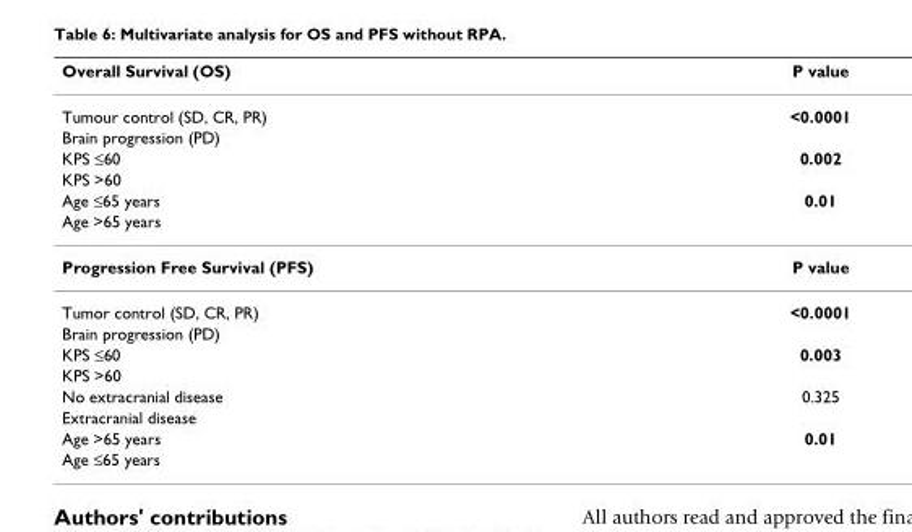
<table><thead><tr><td>Overall Survival (OS)</td><td>P value</td></tr></thead><tbody><tr><td>Tumour control (SD, CR, PR)</td><td>&lt;0.0001</td></tr><tr><td colspan="2">Brain progression (PD)</td></tr><tr><td>KPS ≤60</td><td>0.002</td></tr><tr><td colspan="2">KPS &gt;60</td></tr><tr><td>Age ≤65 years</td><td>0.01</td></tr><tr><td colspan="2">Age &gt;65 years</td></tr><tr><td>Progression Free Survival (PFS)</td><td>P value</td></tr><tr><td>Tumor control (SD, CR, PR)</td><td>&lt;0.0001</td></tr><tr><td colspan="2">Brain progression (PD)</td></tr><tr><td>KPS ≤60</td><td>0.003</td></tr><tr><td colspan="2">KPS &gt;60</td></tr><tr><td>No extracranial disease</td><td>0.325</td></tr><tr><td colspan="2">Extracranial disease</td></tr><tr><td>Age &gt;65 years</td><td>0.01</td></tr><tr><td>Age ≤65 years</td><td></td></tr></tbody></table>